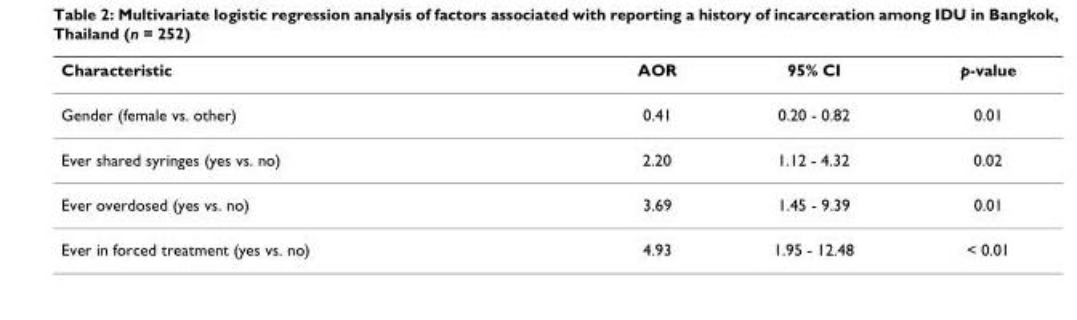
<table><thead><tr><td>Characteristic</td><td>AOR</td><td>95% CI</td><td>p-value</td></tr></thead><tbody><tr><td>Gender (female vs. other)</td><td>0.41</td><td>0.20 - 0.82</td><td>0.01</td></tr><tr><td>Ever shared syringes (yes vs. no)</td><td>2.20</td><td>1.12 - 4.32</td><td>0.02</td></tr><tr><td>Ever overdosed (yes vs. no)</td><td>3.69</td><td>1.45 - 9.39</td><td>0.01</td></tr><tr><td>Ever in forced treatment (yes vs. no)</td><td>4.93</td><td>1.95 - 12.48</td><td>&lt; 0.01</td></tr></tbody></table>